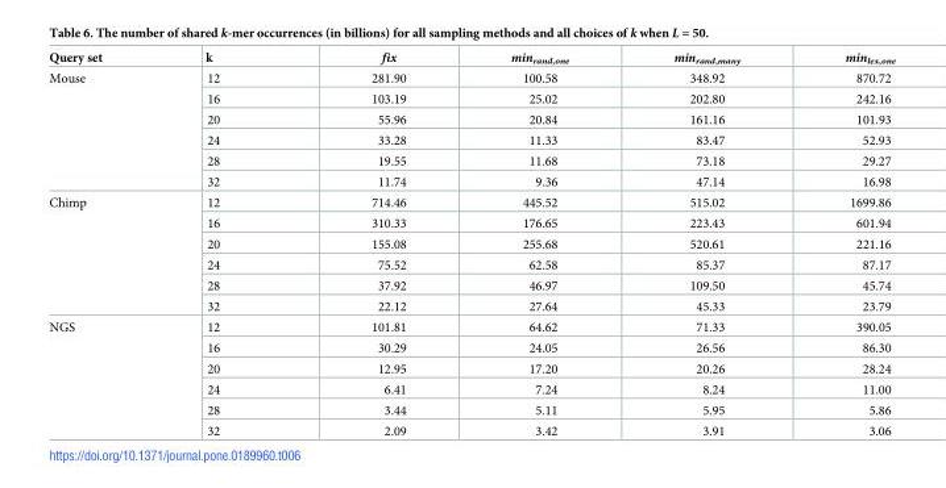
<table><thead><tr><td>Query set</td><td>k</td><td>fix</td><td>min<sub>rand,one</sub></td><td>min<sub>rand,many</sub></td><td>min<sub>lex,one</sub></td></tr></thead><tbody><tr><td rowspan="6">Mouse</td><td>12</td><td>281.90</td><td>100.58</td><td>348.92</td><td>870.72</td></tr><tr><td>16</td><td>103.19</td><td>25.02</td><td>202.80</td><td>242.16</td></tr><tr><td>20</td><td>55.96</td><td>20.84</td><td>161.16</td><td>101.93</td></tr><tr><td>24</td><td>33.28</td><td>11.33</td><td>83.47</td><td>52.93</td></tr><tr><td>28</td><td>19.55</td><td>11.68</td><td>73.18</td><td>29.27</td></tr><tr><td>32</td><td>11.74</td><td>9.36</td><td>47.14</td><td>16.98</td></tr><tr><td rowspan="6">Chimp</td><td>12</td><td>714.46</td><td>445.52</td><td>515.02</td><td>1699.86</td></tr><tr><td>16</td><td>310.33</td><td>176.65</td><td>223.43</td><td>601.94</td></tr><tr><td>20</td><td>155.08</td><td>255.68</td><td>520.61</td><td>221.16</td></tr><tr><td>24</td><td>75.52</td><td>62.58</td><td>85.37</td><td>87.17</td></tr><tr><td>28</td><td>37.92</td><td>46.97</td><td>109.50</td><td>45.74</td></tr><tr><td>32</td><td>22.12</td><td>27.64</td><td>45.33</td><td>23.79</td></tr><tr><td rowspan="6">NGS</td><td>12</td><td>101.81</td><td>64.62</td><td>71.33</td><td>390.05</td></tr><tr><td>16</td><td>30.29</td><td>24.05</td><td>26.56</td><td>86.30</td></tr><tr><td>20</td><td>12.95</td><td>17.20</td><td>20.26</td><td>28.24</td></tr><tr><td>24</td><td>6.41</td><td>7.24</td><td>8.24</td><td>11.00</td></tr><tr><td>28</td><td>3.44</td><td>5.11</td><td>5.95</td><td>5.86</td></tr><tr><td>32</td><td>2.09</td><td>3.42</td><td>3.91</td><td>3.06</td></tr></tbody></table>